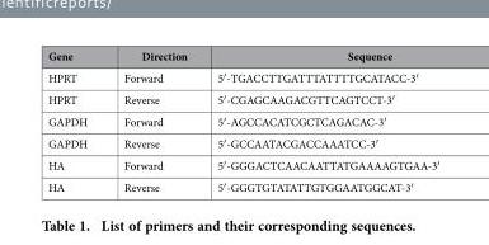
<table><thead><tr><td>Gene</td><td>Direction</td><td>Sequence</td></tr></thead><tbody><tr><td>HPRT</td><td>Forward</td><td>5′ -TGACCTTGATTTATTTTGCATACC-3′</td></tr><tr><td>HPRT</td><td>Reverse</td><td>5′ -CGAGCAAGACGTTCAGTCCT-3′</td></tr><tr><td>GAPDH</td><td>Forward</td><td>5′ -AGCCACATCGCTCAGACAC-3′</td></tr><tr><td>GAPDH</td><td>Reverse</td><td>5′ -GCCAATACGACCAAATCC-3′</td></tr><tr><td>HA</td><td>Forward</td><td>5′ -GGGACTCAACAATTATGAAAAGTGAA-3′</td></tr><tr><td>HA</td><td>Reverse</td><td>5′ -GGGTGTATATTGTGGAATGGCAT-3′</td></tr></tbody></table>